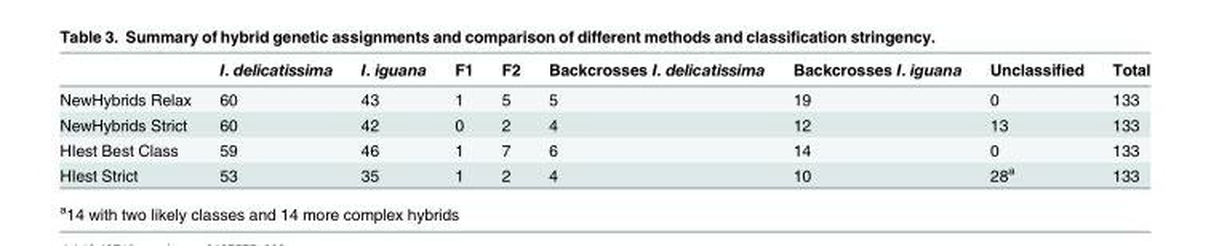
<table><thead><tr><td></td><td>I. delicatissima</td><td>I. iguana</td><td>F1</td><td>F2</td><td>Backcrosses I. delicatissima</td><td>Backcrosses I. iguana</td><td>Unclassified</td><td>Total</td></tr></thead><tbody><tr><td>NewHybrids Relax</td><td>60</td><td>43</td><td>1</td><td>5</td><td>5</td><td>19</td><td>0</td><td>133</td></tr><tr><td>NewHybrids Strict</td><td>60</td><td>42</td><td>0</td><td>2</td><td>4</td><td>12</td><td>13</td><td>133</td></tr><tr><td>HIest Best Class</td><td>59</td><td>46</td><td>1</td><td>7</td><td>6</td><td>14</td><td>0</td><td>133</td></tr><tr><td>HIest Strict</td><td>53</td><td>35</td><td>1</td><td>2</td><td>4</td><td>10</td><td>28<sup>a</sup></td><td>133</td></tr></tbody></table>